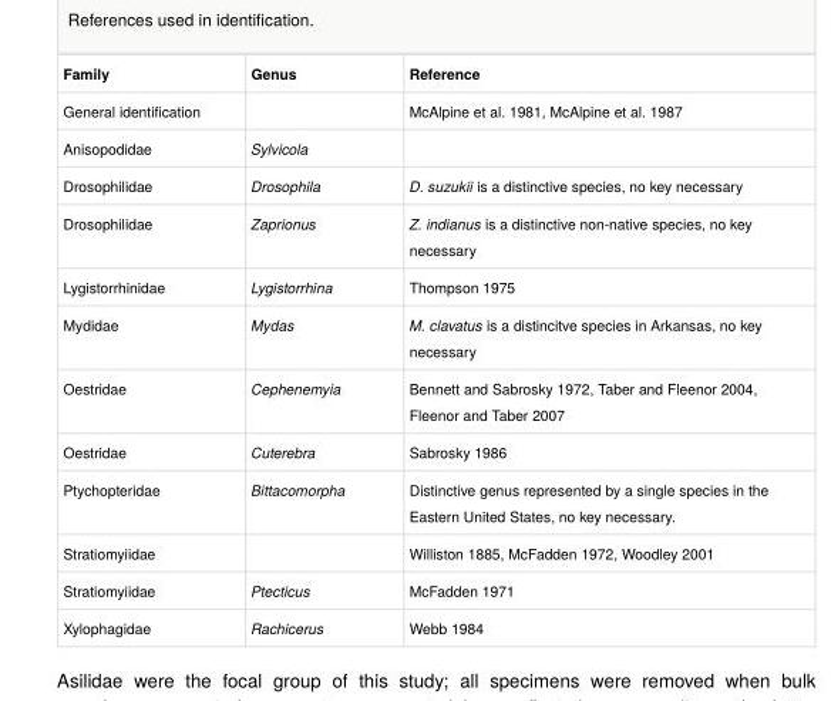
<table><tbody><tr><td>Family</td><td>Genus</td><td>Reference</td></tr><tr><td>General identification</td><td></td><td>McAlpine et al. 1981, McAlpine et al. 1987</td></tr><tr><td>Anisopodidae</td><td>Sylvicola</td><td></td></tr><tr><td>Drosophilidae</td><td>Drosophila</td><td>D. suzukii is a distinctive species, no key necessary</td></tr><tr><td>Drosophilidae</td><td>Zaprionus</td><td>Z. indianus is a distinctive non-native species, no key necessary</td></tr><tr><td>Lygistorrhinidae</td><td>Lygistorrhina</td><td>Thompson 1975</td></tr><tr><td>Mydidae</td><td>Mydas</td><td>M. clavatus is a distincitve species in Arkansas, no key necessary</td></tr><tr><td>Oestridae</td><td>Cephenemyia</td><td>Bennett and Sabrosky 1972, Taber and Fleenor 2004, Fleenor and Taber 2007</td></tr><tr><td>Oestridae</td><td>Cuterebra</td><td>Sabrosky 1986</td></tr><tr><td>Ptychopteridae</td><td>Bittacomorpha</td><td>Distinctive genus represented by a single species in the Eastern United States, no key necessary.</td></tr><tr><td>Stratiomyiidae</td><td></td><td>Williston 1885, McFadden 1972, Woodley 2001</td></tr><tr><td>Stratiomyiidae</td><td>Ptecticus</td><td>McFadden 1971</td></tr><tr><td>Xylophagidae</td><td>Rachicerus</td><td>Webb 1984</td></tr></tbody></table>